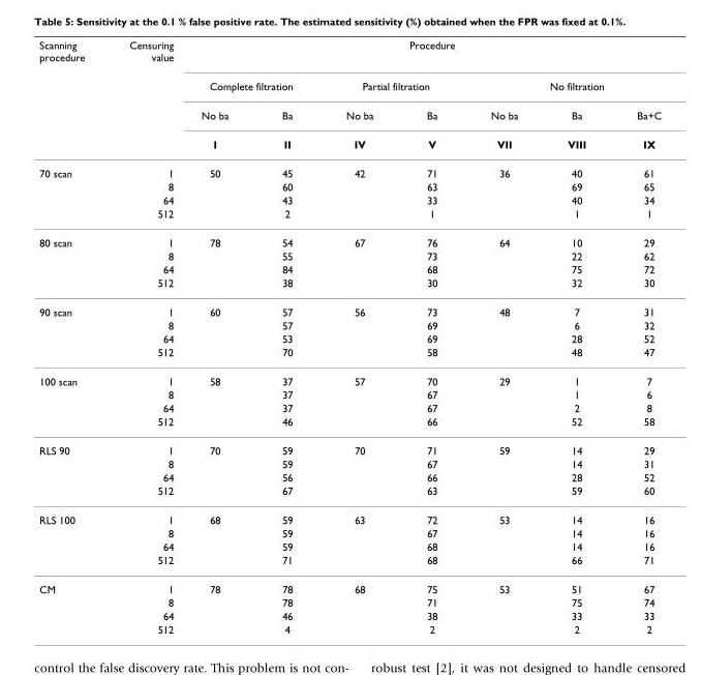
<table><thead><tr><td rowspan="4">Scanning procedure</td><td rowspan="4">Censuring value</td><td colspan="7">Procedure</td></tr><tr><td colspan="2">Complete filtration</td><td colspan="2">Partial filtration</td><td colspan="3">No filtration</td></tr><tr><td rowspan="2">No ba I</td><td rowspan="2">Ba II</td><td rowspan="2">No ba IV</td><td rowspan="2">Ba V</td><td rowspan="2">No ba VII</td><td rowspan="2">Ba VIII</td><td rowspan="2">Ba+C IX</td></tr><tr></tr></thead><tbody><tr><td rowspan="4">70 scan</td><td>1</td><td>50</td><td>45</td><td>42</td><td>71</td><td>36</td><td>40</td><td>61</td></tr><tr><td>8</td><td></td><td>60</td><td></td><td>63</td><td></td><td>69</td><td>65</td></tr><tr><td>64</td><td></td><td>43</td><td></td><td>33</td><td></td><td>40</td><td>34</td></tr><tr><td>512</td><td></td><td>2</td><td></td><td>1</td><td></td><td>1</td><td>1</td></tr><tr><td rowspan="4">80 scan</td><td>1</td><td>78</td><td>54</td><td>67</td><td>76</td><td>64</td><td>10</td><td>29</td></tr><tr><td>8</td><td></td><td>55</td><td></td><td>73</td><td></td><td>22</td><td>62</td></tr><tr><td>64</td><td></td><td>84</td><td></td><td>68</td><td></td><td>75</td><td>72</td></tr><tr><td>512</td><td></td><td>38</td><td></td><td>30</td><td></td><td>32</td><td>30</td></tr><tr><td rowspan="4">90 scan</td><td>1</td><td>60</td><td>57</td><td>56</td><td>73</td><td>48</td><td>7</td><td>31</td></tr><tr><td>8</td><td></td><td>57</td><td></td><td>69</td><td></td><td>6</td><td>32</td></tr><tr><td>64</td><td></td><td>53</td><td></td><td>69</td><td></td><td>28</td><td>52</td></tr><tr><td>512</td><td></td><td>70</td><td></td><td>58</td><td></td><td>48</td><td>47</td></tr><tr><td rowspan="4">100 scan</td><td>1</td><td>58</td><td>37</td><td>57</td><td>70</td><td>29</td><td>1</td><td>7</td></tr><tr><td>8</td><td></td><td>37</td><td></td><td>67</td><td></td><td>1</td><td>6</td></tr><tr><td>64</td><td></td><td>37</td><td></td><td>67</td><td></td><td>2</td><td>8</td></tr><tr><td>512</td><td></td><td>46</td><td></td><td>66</td><td></td><td>52</td><td>58</td></tr><tr><td rowspan="4">RLS 90</td><td>1</td><td>70</td><td>59</td><td>70</td><td>71</td><td>59</td><td>14</td><td>29</td></tr><tr><td>8</td><td></td><td>59</td><td></td><td>67</td><td></td><td>14</td><td>31</td></tr><tr><td>64</td><td></td><td>56</td><td></td><td>66</td><td></td><td>28</td><td>52</td></tr><tr><td>512</td><td></td><td>67</td><td></td><td>63</td><td></td><td>59</td><td>60</td></tr><tr><td rowspan="4">RLS 100</td><td>1</td><td>68</td><td>59</td><td>63</td><td>72</td><td>53</td><td>14</td><td>16</td></tr><tr><td>8</td><td></td><td>59</td><td></td><td>67</td><td></td><td>14</td><td>16</td></tr><tr><td>64</td><td></td><td>59</td><td></td><td>68</td><td></td><td>14</td><td>16</td></tr><tr><td>512</td><td></td><td>71</td><td></td><td>68</td><td></td><td>66</td><td>71</td></tr><tr><td rowspan="4">CM</td><td>1</td><td>78</td><td>78</td><td>68</td><td>75</td><td>53</td><td>51</td><td>67</td></tr><tr><td>8</td><td></td><td>78</td><td></td><td>71</td><td></td><td>75</td><td>74</td></tr><tr><td>64</td><td></td><td>46</td><td></td><td>38</td><td></td><td>33</td><td>33</td></tr><tr><td>512</td><td></td><td>4</td><td></td><td>2</td><td></td><td>2</td><td>2</td></tr></tbody></table>